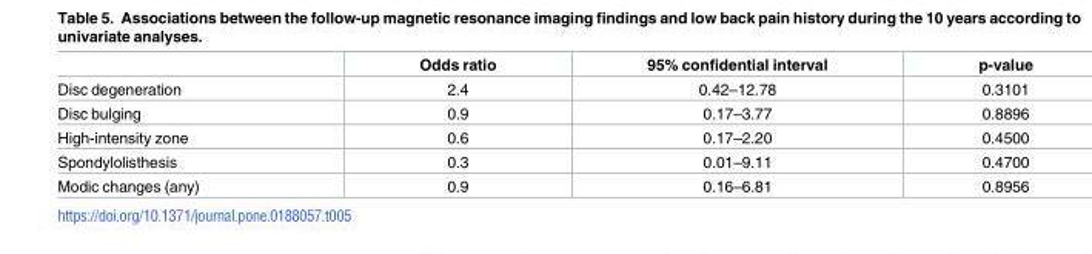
<table><thead><tr><td></td><td>Odds ratio</td><td>95% confidential interval</td><td>p-value</td></tr></thead><tbody><tr><td>Disc degeneration</td><td>2.4</td><td>0.42–12.78</td><td>0.3101</td></tr><tr><td>Disc bulging</td><td>0.9</td><td>0.17–3.77</td><td>0.8896</td></tr><tr><td>High-intensity zone</td><td>0.6</td><td>0.17–2.20</td><td>0.4500</td></tr><tr><td>Spondylolisthesis</td><td>0.3</td><td>0.01–9.11</td><td>0.4700</td></tr><tr><td>Modic changes (any)</td><td>0.9</td><td>0.16–6.81</td><td>0.8956</td></tr></tbody></table>